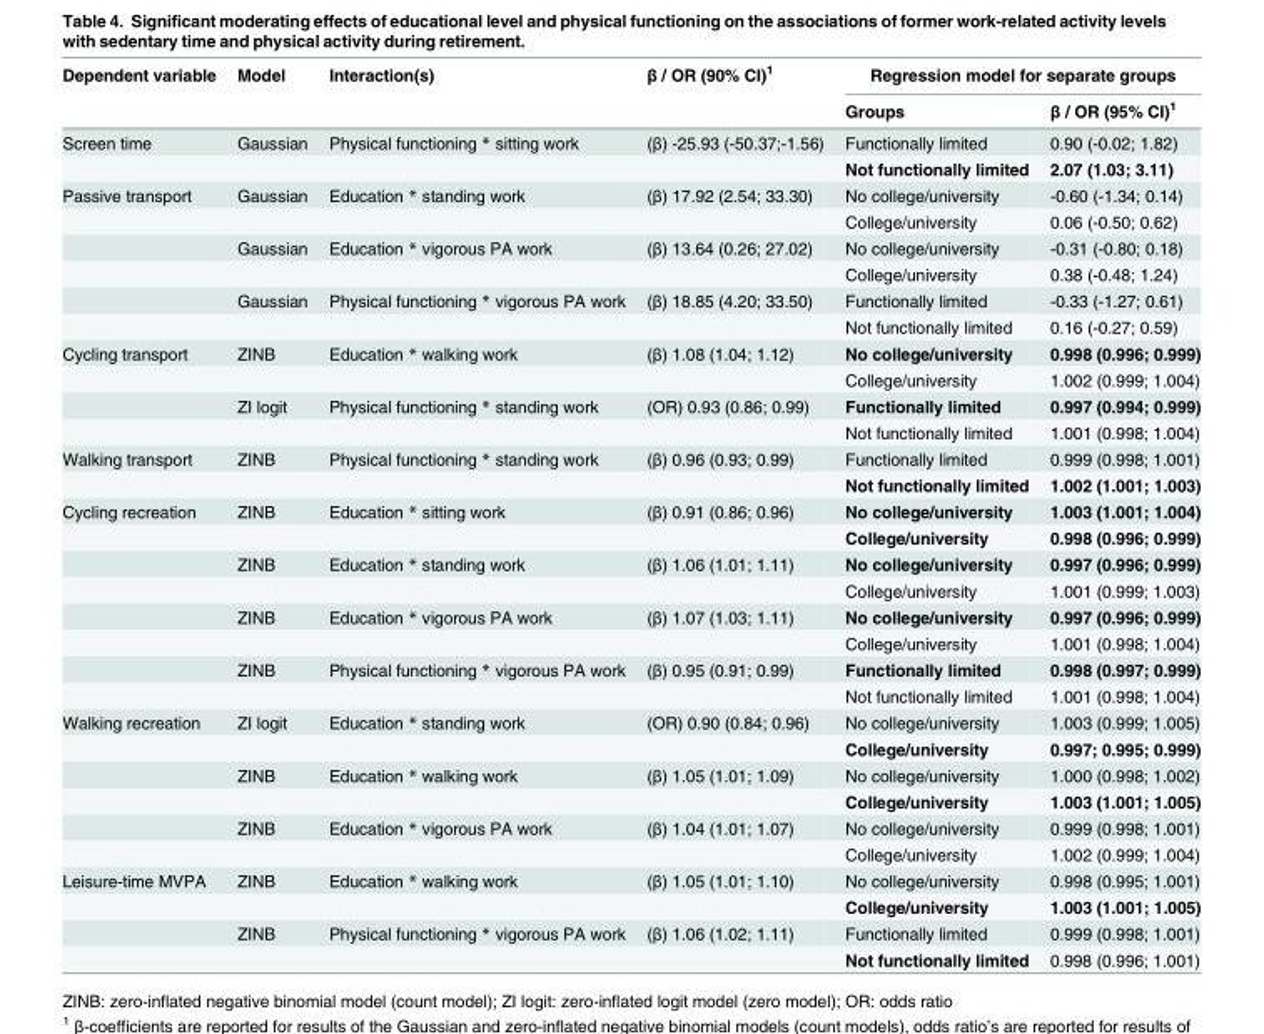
<table><thead><tr><td rowspan="2">Dependent variable</td><td rowspan="2">Model</td><td rowspan="2">Interaction(s)</td><td rowspan="2">β / OR (90% CI)<sup>1</sup></td><td colspan="2">Regression model for separate groups</td></tr><tr><td>Groups</td><td>β / OR (95% CI)<sup>1</sup></td></tr></thead><tbody><tr><td rowspan="2">Screen time</td><td>Gaussian</td><td>Physical functioning * sitting work</td><td>(β) -25.93 (-50.37;-1.56)</td><td>Functionally limited</td><td>0.90 (-0.02; 1.82)</td></tr><tr><td></td><td></td><td></td><td>Not functionally limited</td><td>2.07 (1.03; 3.11)</td></tr><tr><td rowspan="6">Passive transport</td><td>Gaussian</td><td>Education * standing work</td><td>(β) 17.92 (2.54; 33.30)</td><td>No college/university</td><td>-0.60 (-1.34; 0.14)</td></tr><tr><td></td><td></td><td></td><td>College/university</td><td>0.06 (-0.50; 0.62)</td></tr><tr><td>Gaussian</td><td>Education * vigorous PA work</td><td>(β) 13.64 (0.26; 27.02)</td><td>No college/university</td><td>-0.31 (-0.80; 0.18)</td></tr><tr><td></td><td></td><td></td><td>College/university</td><td>0.38 (-0.48; 1.24)</td></tr><tr><td>Gaussian</td><td>Physical functioning * vigorous PA work</td><td>(β) 18.85 (4.20; 33.50)</td><td>Functionally limited</td><td>-0.33 (-1.27; 0.61)</td></tr><tr><td></td><td></td><td></td><td>Not functionally limited</td><td>0.16 (-0.27; 0.59)</td></tr><tr><td rowspan="4">Cycling transport</td><td>ZINB</td><td>Education * walking work</td><td>(β) 1.08 (1.04; 1.12)</td><td>No college/university</td><td>0.998 (0.996; 0.999)</td></tr><tr><td></td><td></td><td></td><td>College/university</td><td>1.002 (0.999; 1.004)</td></tr><tr><td>ZI logit</td><td>Physical functioning * standing work</td><td>(OR) 0.93 (0.86; 0.99)</td><td>Functionally limited</td><td>0.997 (0.994; 0.999)</td></tr><tr><td></td><td></td><td></td><td>Not functionally limited</td><td>1.001 (0.998; 1.004)</td></tr><tr><td rowspan="2">Walking transport</td><td>ZINB</td><td>Physical functioning * standing work</td><td>(β) 0.96 (0.93; 0.99)</td><td>Functionally limited</td><td>0.999 (0.998; 1.001)</td></tr><tr><td></td><td></td><td></td><td>Not functionally limited</td><td>1.002 (1.001; 1.003)</td></tr><tr><td rowspan="8">Cycling recreation</td><td>ZINB</td><td>Education * sitting work</td><td>(β) 0.91 (0.86; 0.96)</td><td>No college/university</td><td>1.003 (1.001; 1.004)</td></tr><tr><td></td><td></td><td></td><td>College/university</td><td>0.998 (0.996; 0.999)</td></tr><tr><td>ZINB</td><td>Education * standing work</td><td>(β) 1.06 (1.01; 1.11)</td><td>No college/university</td><td>0.997 (0.996; 0.999)</td></tr><tr><td></td><td></td><td></td><td>College/university</td><td>1.001 (0.999; 1.003)</td></tr><tr><td>ZINB</td><td>Education * vigorous PA work</td><td>(β) 1.07 (1.03; 1.11)</td><td>No college/university</td><td>0.997 (0.996; 0.999)</td></tr><tr><td></td><td></td><td></td><td>College/university</td><td>1.001 (0.998; 1.004)</td></tr><tr><td>ZINB</td><td>Physical functioning * vigorous PA work</td><td>(β) 0.95 (0.91; 0.99)</td><td>Functionally limited</td><td>0.998 (0.997; 0.999)</td></tr><tr><td></td><td></td><td></td><td>Not functionally limited</td><td>1.001 (0.998; 1.004)</td></tr><tr><td rowspan="6">Walking recreation</td><td>ZI logit</td><td>Education * standing work</td><td>(OR) 0.90 (0.84; 0.96)</td><td>No college/university</td><td>1.003 (0.999; 1.005)</td></tr><tr><td></td><td></td><td></td><td>College/university</td><td>0.997; 0.995; 0.999)</td></tr><tr><td>ZINB</td><td>Education * walking work</td><td>(β) 1.05 (1.01; 1.09)</td><td>No college/university</td><td>1.000 (0.998; 1.002)</td></tr><tr><td></td><td></td><td></td><td>College/university</td><td>1.003 (1.001; 1.005)</td></tr><tr><td>ZINB</td><td>Education * vigorous PA work</td><td>(β) 1.04 (1.01; 1.07)</td><td>No college/university</td><td>0.999 (0.998; 1.001)</td></tr><tr><td></td><td></td><td></td><td>College/university</td><td>1.002 (0.999; 1.004)</td></tr><tr><td rowspan="4">Leisure-time MVPA</td><td>ZINB</td><td>Education * walking work</td><td>(β) 1.05 (1.01; 1.10)</td><td>No college/university</td><td>0.998 (0.995; 1.001)</td></tr><tr><td></td><td></td><td></td><td>College/university</td><td>1.003 (1.001; 1.005)</td></tr><tr><td>ZINB</td><td>Physical functioning * vigorous PA work</td><td>(β) 1.06 (1.02; 1.11)</td><td>Functionally limited</td><td>0.999 (0.998; 1.001)</td></tr><tr><td></td><td></td><td></td><td>Not functionally limited</td><td>0.998 (0.996; 1.001)</td></tr></tbody></table>